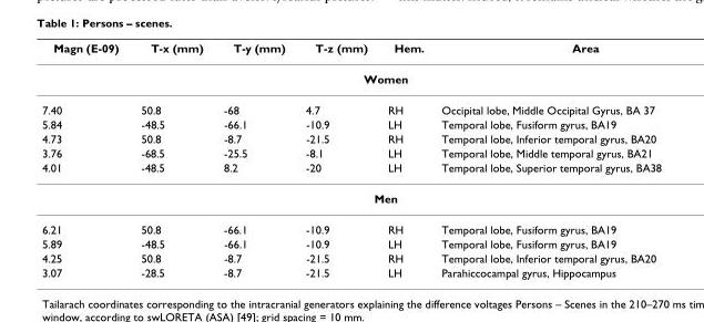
<table><thead><tr><td>Magn (E-09)</td><td>T-x (mm)</td><td>T-y (mm)</td><td>T-z (mm)</td><td>Hem.</td><td>Area</td></tr></thead><tbody><tr><td colspan="6">Women</td></tr><tr><td>7.40</td><td>50.8</td><td>-68</td><td>4.7</td><td>RH</td><td>Occipital lobe, Middle Occipital Gyrus, BA 37</td></tr><tr><td>5.84</td><td>-48.5</td><td>-66.1</td><td>-10.9</td><td>LH</td><td>Temporal lobe, Fusiform gyrus, BA19</td></tr><tr><td>4.73</td><td>50.8</td><td>-8.7</td><td>-21.5</td><td>RH</td><td>Temporal lobe, Inferior temporal gyrus, BA20</td></tr><tr><td>3.76</td><td>-68.5</td><td>-25.5</td><td>-8.1</td><td>LH</td><td>Temporal lobe, Middle temporal gyrus, BA21</td></tr><tr><td>4.01</td><td>-48.5</td><td>8.2</td><td>-20</td><td>LH</td><td>Temporal lobe, Superior temporal gyrus, BA38</td></tr><tr><td colspan="6">Men</td></tr><tr><td>6.21</td><td>50.8</td><td>-66.1</td><td>-10.9</td><td>RH</td><td>Temporal lobe, Fusiform gyrus, BA19</td></tr><tr><td>5.89</td><td>-48.5</td><td>-66.1</td><td>-10.9</td><td>LH</td><td>Temporal lobe, Fusiform gyrus, BA19</td></tr><tr><td>4.25</td><td>50.8</td><td>-8.7</td><td>-21.5</td><td>RH</td><td>Temporal lobe, Inferior temporal gyrus, BA20</td></tr><tr><td>3.07</td><td>-28.5</td><td>-8.7</td><td>-21.5</td><td>LH</td><td>Parahiccocampal gyrus, Hippocampus</td></tr></tbody></table>